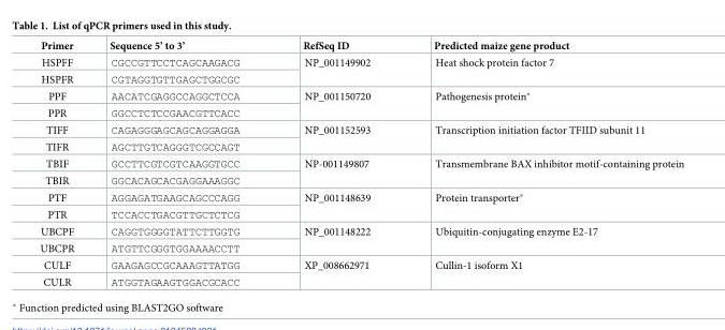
<table><thead><tr><td>Primer</td><td>Sequence 5’ to 3’</td><td>RefSeq ID</td><td>Predicted maize gene product</td></tr></thead><tbody><tr><td>HSPFF</td><td>CGCCGTTCCTCAGCAAGACG</td><td rowspan="2">NP_001149902</td><td rowspan="2">Heat shock protein factor 7</td></tr><tr><td>HSPFR</td><td>CGTAGGTGTTGAGCTGGCGC</td></tr><tr><td>PPF</td><td>AACATCGAGGCCAGGCTCCA</td><td rowspan="2">NP_001150720</td><td rowspan="2">Pathogenesis protein*</td></tr><tr><td>PPR</td><td>GGCCTCTCCGAACGTTCACC</td></tr><tr><td>TIFF</td><td>CAGAGGGAGCAGCAGGAGGA</td><td rowspan="2">NP_001152593</td><td rowspan="2">Transcription initiation factor TFIID subunit 11</td></tr><tr><td>TIFR</td><td>AGCTTGTCAGGGTCGCCAGT</td></tr><tr><td>TBIF</td><td>GCCTTCGTCGTCAAGGTGCC</td><td rowspan="2">NP-001149807</td><td rowspan="2">Transmembrane BAX inhibitor motif-containing protein</td></tr><tr><td>TBIR</td><td>GGCACAGCACGAGGAAAGGC</td></tr><tr><td>PTF</td><td>AGGAGATGAAGCAGCCCAGG</td><td rowspan="2">NP_001148639</td><td rowspan="2">Protein transporter*</td></tr><tr><td>PTR</td><td>TCCACCTGACGTTGCTCTCG</td></tr><tr><td>UBCPF</td><td>CAGGTGGGGTATTCTTGGTG</td><td rowspan="2">NP_001148222</td><td rowspan="2">Ubiquitin-conjugating enzyme E2-17</td></tr><tr><td>UBCPR</td><td>ATGTTCGGGTGGAAAACCTT</td></tr><tr><td>CULF</td><td>GAAGAGCCGCAAAGTTATGG</td><td rowspan="2">XP_008662971</td><td rowspan="2">Cullin-1 isoform X1</td></tr><tr><td>CULR</td><td>ATGGTAGAAGTGGACGCACC</td></tr></tbody></table>